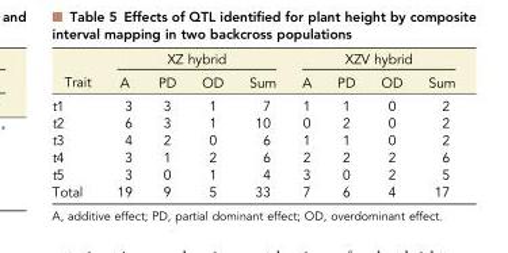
<table><thead><tr><td rowspan="2">Trait</td><td colspan="4">XZ hybrid</td><td colspan="4">XZV hybrid</td></tr><tr><td>A</td><td>PD</td><td>OD</td><td>Sum</td><td>A</td><td>PD</td><td>OD</td><td>Sum</td></tr></thead><tbody><tr><td>t1</td><td>3</td><td>3</td><td>1</td><td>7</td><td>1</td><td>1</td><td>0</td><td>2</td></tr><tr><td>t2</td><td>6</td><td>3</td><td>1</td><td>10</td><td>0</td><td>2</td><td>0</td><td>2</td></tr><tr><td>t3</td><td>4</td><td>2</td><td>0</td><td>6</td><td>1</td><td>1</td><td>0</td><td>2</td></tr><tr><td>t4</td><td>3</td><td>1</td><td>2</td><td>6</td><td>2</td><td>2</td><td>2</td><td>6</td></tr><tr><td>t5</td><td>3</td><td>0</td><td>1</td><td>4</td><td>3</td><td>0</td><td>2</td><td>5</td></tr><tr><td>Total</td><td>19</td><td>9</td><td>5</td><td>33</td><td>7</td><td>6</td><td>4</td><td>17</td></tr></tbody></table>